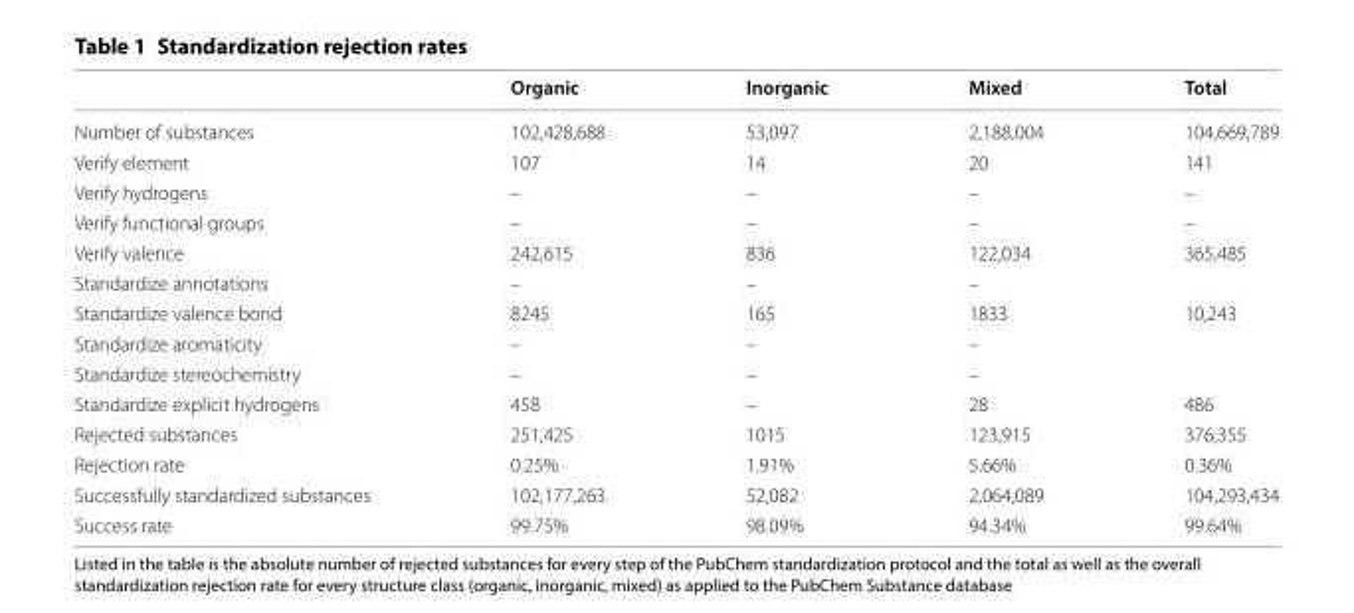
<table><thead><tr><td></td><td>Organic</td><td>Inorganic</td><td>Mixed</td><td>Total</td></tr></thead><tbody><tr><td>Number of substances</td><td>102,428,688</td><td>53,097</td><td>2,188,004</td><td>104,669,789</td></tr><tr><td>Verify element</td><td>107</td><td>14</td><td>20</td><td>141</td></tr><tr><td>Verify hydrogens</td><td>–</td><td>–</td><td>–</td><td>–</td></tr><tr><td>Verify functional groups</td><td>–</td><td>–</td><td>–</td><td>–</td></tr><tr><td>Verify valence</td><td>242,615</td><td>836</td><td>122,034</td><td>365,485</td></tr><tr><td>Standardize annotations</td><td>–</td><td>–</td><td>–</td><td></td></tr><tr><td>Standardize valence bond</td><td>8245</td><td>165</td><td>1833</td><td>10,243</td></tr><tr><td>Standardize aromaticity</td><td>–</td><td>–</td><td>–</td><td></td></tr><tr><td>Standardize stereochemistry</td><td>–</td><td>–</td><td>–</td><td></td></tr><tr><td>Standardize explicit hydrogens</td><td>458</td><td>–</td><td>28</td><td>486</td></tr><tr><td>Rejected substances</td><td>251,425</td><td>1015</td><td>123,915</td><td>376,355</td></tr><tr><td>Rejection rate</td><td>0.25%</td><td>1.91%</td><td>5.66%</td><td>0.36%</td></tr><tr><td>Successfully standardized substances</td><td>102,177,263</td><td>52,082</td><td>2,064,089</td><td>104,293,434</td></tr><tr><td>Success rate</td><td>99.75%</td><td>98.09%</td><td>94.34%</td><td>99.64%</td></tr></tbody></table>